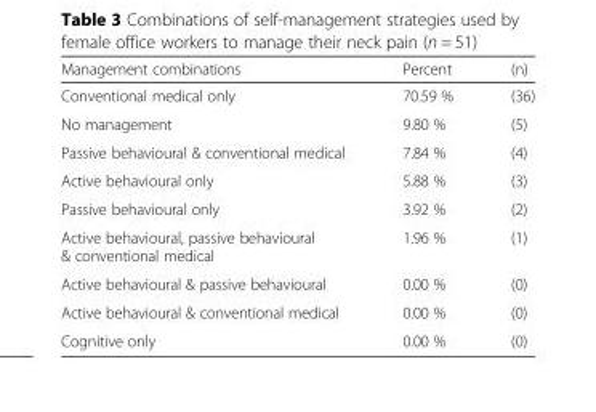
<table><thead><tr><td>Management combinations</td><td>Percent</td><td>(n)</td></tr></thead><tbody><tr><td>Conventional medical only</td><td>70.59 %</td><td>(36)</td></tr><tr><td>No management</td><td>9.80 %</td><td>(5)</td></tr><tr><td>Passive behavioural &amp; conventional medical</td><td>7.84 %</td><td>(4)</td></tr><tr><td>Active behavioural only</td><td>5.88 %</td><td>(3)</td></tr><tr><td>Passive behavioural only</td><td>3.92 %</td><td>(2)</td></tr><tr><td>Active behavioural, passive behavioural &amp; conventional medical</td><td>1.96 %</td><td>(1)</td></tr><tr><td>Active behavioural &amp; passive behavioural</td><td>0.00 %</td><td>(0)</td></tr><tr><td>Active behavioural &amp; conventional medical</td><td>0.00 %</td><td>(0)</td></tr><tr><td>Cognitive only</td><td>0.00 %</td><td>(0)</td></tr></tbody></table>